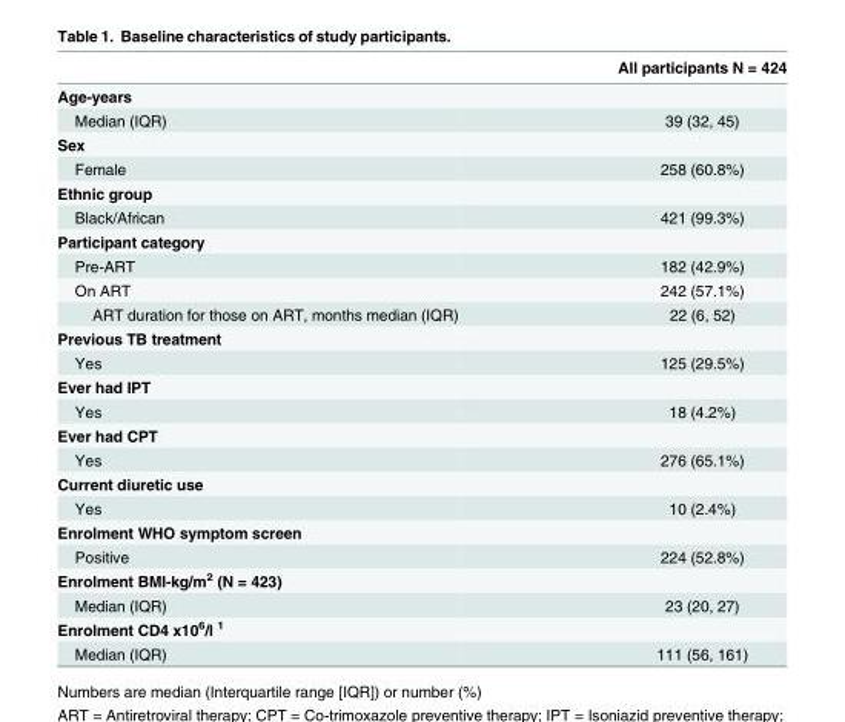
<table><thead><tr><td></td><td>All participants N = 424</td></tr></thead><tbody><tr><td colspan="2">Age-years</td></tr><tr><td>Median (IQR)</td><td>39 (32, 45)</td></tr><tr><td colspan="2">Sex</td></tr><tr><td>Female</td><td>258 (60.8%)</td></tr><tr><td colspan="2">Ethnic group</td></tr><tr><td>Black/African</td><td>421 (99.3%)</td></tr><tr><td colspan="2">Participant category</td></tr><tr><td>Pre-ART</td><td>182 (42.9%)</td></tr><tr><td>On ART</td><td>242 (57.1%)</td></tr><tr><td>ART duration for those on ART, months median (IQR)</td><td>22 (6, 52)</td></tr><tr><td colspan="2">Previous TB treatment</td></tr><tr><td>Yes</td><td>125 (29.5%)</td></tr><tr><td colspan="2">Ever had IPT</td></tr><tr><td>Yes</td><td>18 (4.2%)</td></tr><tr><td colspan="2">Ever had CPT</td></tr><tr><td>Yes</td><td>276 (65.1%)</td></tr><tr><td colspan="2">Current diuretic use</td></tr><tr><td>Yes</td><td>10 (2.4%)</td></tr><tr><td colspan="2">Enrolment WHO symptom screen</td></tr><tr><td>Positive</td><td>224 (52.8%)</td></tr><tr><td colspan="2">Enrolment BMI-kg/m<sup>2</sup> (N = 423)</td></tr><tr><td>Median (IQR)</td><td>23 (20, 27)</td></tr><tr><td colspan="2">Enrolment CD4 x10<sup>6</sup>/l <sup>1</sup></td></tr><tr><td>Median (IQR)</td><td>111 (56, 161)</td></tr></tbody></table>